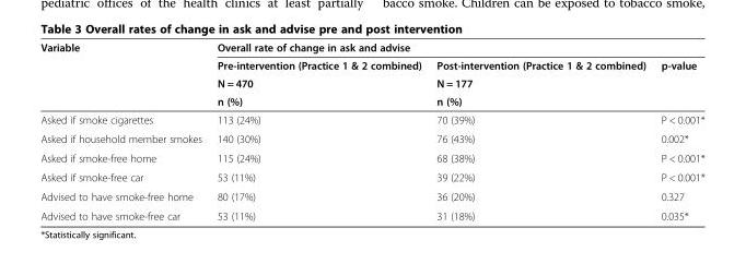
<table><thead><tr><td rowspan="4">Variable</td><td colspan="3">Overall rate of change in ask and advise</td></tr><tr><td rowspan="3">Pre-intervention (Practice 1 &amp; 2 combined) N = 470 n (%)</td><td rowspan="3">Post-intervention (Practice 1 &amp; 2 combined) N = 177 n (%)</td><td rowspan="3">p-value</td></tr><tr></tr><tr></tr></thead><tbody><tr><td>Asked if smoke cigarettes</td><td>113 (24%)</td><td>70 (39%)</td><td>P &lt; 0.001*</td></tr><tr><td>Asked if household member smokes</td><td>140 (30%)</td><td>76 (43%)</td><td>0.002*</td></tr><tr><td>Asked if smoke-free home</td><td>115 (24%)</td><td>68 (38%)</td><td>P &lt; 0.001*</td></tr><tr><td>Asked if smoke-free car</td><td>53 (11%)</td><td>39 (22%)</td><td>P &lt; 0.001*</td></tr><tr><td>Advised to have smoke-free home</td><td>80 (17%)</td><td>36 (20%)</td><td>0.327</td></tr><tr><td>Advised to have smoke-free car</td><td>53 (11%)</td><td>31 (18%)</td><td>0.035*</td></tr></tbody></table>